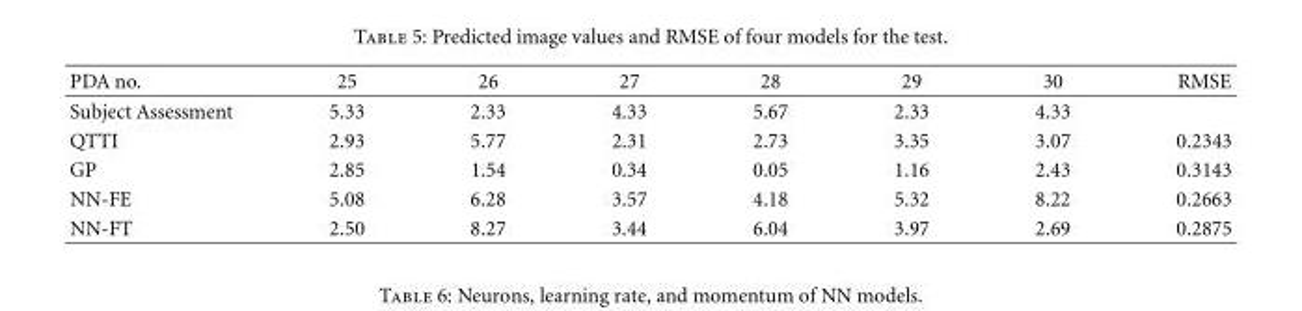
<table><thead><tr><td>PDA no.</td><td>25</td><td>26</td><td>27</td><td>28</td><td>29</td><td>30</td><td>RMSE</td></tr></thead><tbody><tr><td>Subject Assessment</td><td>5.33</td><td>2.33</td><td>4.33</td><td>5.67</td><td>2.33</td><td>4.33</td><td></td></tr><tr><td>QTTI</td><td>2.93</td><td>5.77</td><td>2.31</td><td>2.73</td><td>3.35</td><td>3.07</td><td>0.2343</td></tr><tr><td>GP</td><td>2.85</td><td>1.54</td><td>0.34</td><td>0.05</td><td>1.16</td><td>2.43</td><td>0.3143</td></tr><tr><td>NN-FE</td><td>5.08</td><td>6.28</td><td>3.57</td><td>4.18</td><td>5.32</td><td>8.22</td><td>0.2663</td></tr><tr><td>NN-FT</td><td>2.50</td><td>8.27</td><td>3.44</td><td>6.04</td><td>3.97</td><td>2.69</td><td>0.2875</td></tr></tbody></table>